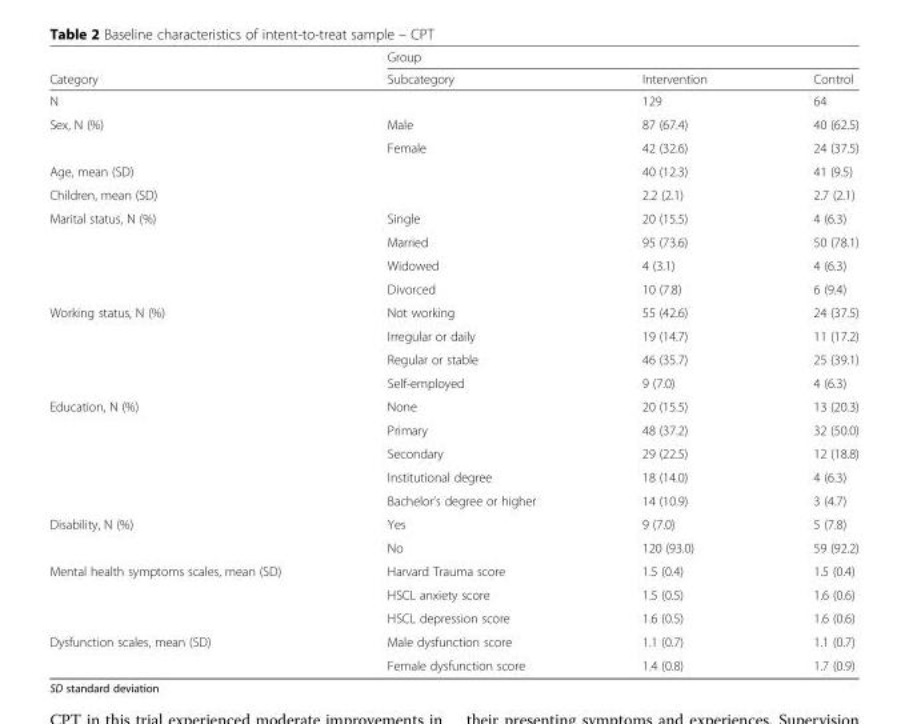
<table><thead><tr><td rowspan="2">Category</td><td colspan="3">Group</td></tr><tr><td>Subcategory</td><td>Intervention</td><td>Control</td></tr></thead><tbody><tr><td>N</td><td></td><td>129</td><td>64</td></tr><tr><td rowspan="2">Sex, N (%)</td><td>Male</td><td>87 (67.4)</td><td>40 (62.5)</td></tr><tr><td>Female</td><td>42 (32.6)</td><td>24 (37.5)</td></tr><tr><td>Age, mean (SD)</td><td></td><td>40 (12.3)</td><td>41 (9.5)</td></tr><tr><td>Children, mean (SD)</td><td></td><td>2.2 (2.1)</td><td>2.7 (2.1)</td></tr><tr><td rowspan="4">Marital status, N (%)</td><td>Single</td><td>20 (15.5)</td><td>4 (6.3)</td></tr><tr><td>Married</td><td>95 (73.6)</td><td>50 (78.1)</td></tr><tr><td>Widowed</td><td>4 (3.1)</td><td>4 (6.3)</td></tr><tr><td>Divorced</td><td>10 (7.8)</td><td>6 (9.4)</td></tr><tr><td rowspan="4">Working status, N (%)</td><td>Not working</td><td>55 (42.6)</td><td>24 (37.5)</td></tr><tr><td>Irregular or daily</td><td>19 (14.7)</td><td>11 (17.2)</td></tr><tr><td>Regular or stable</td><td>46 (35.7)</td><td>25 (39.1)</td></tr><tr><td>Self-employed</td><td>9 (7.0)</td><td>4 (6.3)</td></tr><tr><td rowspan="5">Education, N (%)</td><td>None</td><td>20 (15.5)</td><td>13 (20.3)</td></tr><tr><td>Primary</td><td>48 (37.2)</td><td>32 (50.0)</td></tr><tr><td>Secondary</td><td>29 (22.5)</td><td>12 (18.8)</td></tr><tr><td>Institutional degree</td><td>18 (14.0)</td><td>4 (6.3)</td></tr><tr><td>Bachelor’s degree or higher</td><td>14 (10.9)</td><td>3 (4.7)</td></tr><tr><td rowspan="2">Disability, N (%)</td><td>Yes</td><td>9 (7.0)</td><td>5 (7.8)</td></tr><tr><td>No</td><td>120 (93.0)</td><td>59 (92.2)</td></tr><tr><td rowspan="3">Mental health symptoms scales, mean (SD)</td><td>Harvard Trauma score</td><td>1.5 (0.4)</td><td>1.5 (0.4)</td></tr><tr><td>HSCL anxiety score</td><td>1.5 (0.5)</td><td>1.6 (0.6)</td></tr><tr><td>HSCL depression score</td><td>1.6 (0.5)</td><td>1.6 (0.6)</td></tr><tr><td rowspan="2">Dysfunction scales, mean (SD)</td><td>Male dysfunction score</td><td>1.1 (0.7)</td><td>1.1 (0.7)</td></tr><tr><td>Female dysfunction score</td><td>1.4 (0.8)</td><td>1.7 (0.9)</td></tr></tbody></table>